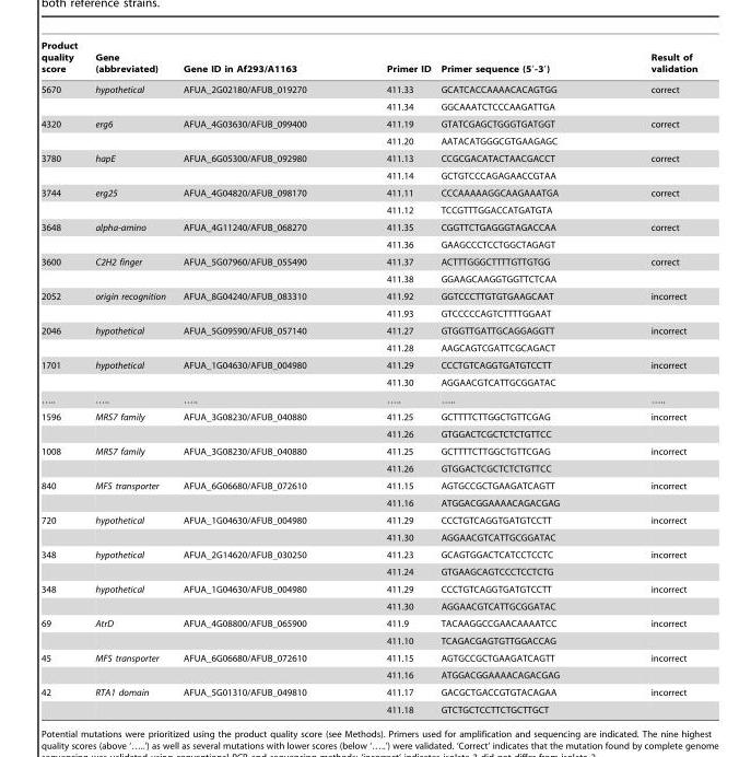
<table><thead><tr><td>Product quality score</td><td>Gene (abbreviated)</td><td>Gene ID in Af293/A1163</td><td>Primer ID</td><td>Primer sequence (5′-3′)</td><td>Result of validation</td></tr></thead><tbody><tr><td rowspan="2">5670</td><td>hypothetical</td><td>AFUA_2G02180/AFUB_019270</td><td>411.33</td><td>GCATCACCAAAACACAGTGG</td><td>correct</td></tr><tr><td></td><td></td><td>411.34</td><td>GGCAAATCTCCCAAGATTGA</td><td></td></tr><tr><td rowspan="2">4320</td><td>erg6</td><td>AFUA_4G03630/AFUB_099400</td><td>411.19</td><td>GTATCGAGCTGGGTGATGGT</td><td>correct</td></tr><tr><td></td><td></td><td>411.20</td><td>AATACATGGGCGTGAAGAGC</td><td></td></tr><tr><td rowspan="2">3780</td><td>hapE</td><td>AFUA_6G05300/AFUB_092980</td><td>411.13</td><td>CCGCGACATACTAACGACCT</td><td>correct</td></tr><tr><td></td><td></td><td>411.14</td><td>GCTGTCCCAGAGAACCGTAA</td><td></td></tr><tr><td rowspan="2">3744</td><td>erg25</td><td>AFUA_4G04820/AFUB_098170</td><td>411.11</td><td>CCCAAAAAGGCAAGAAATGA</td><td>correct</td></tr><tr><td></td><td></td><td>411.12</td><td>TCCGTTTGGACCATGATGTA</td><td></td></tr><tr><td rowspan="2">3648</td><td>alpha-amino</td><td>AFUA_4G11240/AFUB_068270</td><td>411.35</td><td>CGGTTCTGAGGGTAGACCAA</td><td>correct</td></tr><tr><td></td><td></td><td>411.36</td><td>GAAGCCCTCCTGGCTAGAGT</td><td></td></tr><tr><td rowspan="2">3600</td><td>C2H2 finger</td><td>AFUA_5G07960/AFUB_055490</td><td>411.37</td><td>ACTTTGGGCTTTTGTTGTGG</td><td>correct</td></tr><tr><td></td><td></td><td>411.38</td><td>GGAAGCAAGGTGGTTCTCAA</td><td></td></tr><tr><td rowspan="2">2052</td><td>origin recognition</td><td>AFUA_8G04240/AFUB_083310</td><td>411.92</td><td>GGTCCCTTGTGTGAAGCAAT</td><td>incorrect</td></tr><tr><td></td><td></td><td>411.93</td><td>GTCCCCCAGTCTTTTGGAAT</td><td></td></tr><tr><td rowspan="2">2046</td><td>hypothetical</td><td>AFUA_5G09590/AFUB_057140</td><td>411.27</td><td>GTGGTTGATTGCAGGAGGTT</td><td>incorrect</td></tr><tr><td></td><td></td><td>411.28</td><td>AAGCAGTCGATTCGCAGACT</td><td></td></tr><tr><td rowspan="2">1701</td><td>hypothetical</td><td>AFUA_1G04630/AFUB_004980</td><td>411.29</td><td>CCCTGTCAGGTGATGTCCTT</td><td>incorrect</td></tr><tr><td></td><td></td><td>411.30</td><td>AGGAACGTCATTGCGGATAC</td><td></td></tr><tr><td>…..</td><td>…..</td><td>…..</td><td>…..</td><td>…..</td><td>…..</td></tr><tr><td rowspan="2">1596</td><td>MRS7 family</td><td>AFUA_3G08230/AFUB_040880</td><td>411.25</td><td>GCTTTTCTTGGCTGTTCGAG</td><td>incorrect</td></tr><tr><td></td><td></td><td>411.26</td><td>GTGGACTCGCTCTCTGTTCC</td><td></td></tr><tr><td rowspan="2">1008</td><td>MRS7 family</td><td>AFUA_3G08230/AFUB_040880</td><td>411.25</td><td>GCTTTTCTTGGCTGTTCGAG</td><td>incorrect</td></tr><tr><td></td><td></td><td>411.26</td><td>GTGGACTCGCTCTCTGTTCC</td><td></td></tr><tr><td rowspan="2">840</td><td>MFS transporter</td><td>AFUA_6G06680/AFUB_072610</td><td>411.15</td><td>AGTGCCGCTGAAGATCAGTT</td><td>incorrect</td></tr><tr><td></td><td></td><td>411.16</td><td>ATGGACGGAAAACAGACGAG</td><td></td></tr><tr><td rowspan="2">720</td><td>hypothetical</td><td>AFUA_1G04630/AFUB_004980</td><td>411.29</td><td>CCCTGTCAGGTGATGTCCTT</td><td>incorrect</td></tr><tr><td></td><td></td><td>411.30</td><td>AGGAACGTCATTGCGGATAC</td><td></td></tr><tr><td rowspan="2">348</td><td>hypothetical</td><td>AFUA_2G14620/AFUB_030250</td><td>411.23</td><td>GCAGTGGACTCATCCTCCTC</td><td>incorrect</td></tr><tr><td></td><td></td><td>411.24</td><td>GTGAAGCAGTCCCTCCTCTG</td><td></td></tr><tr><td rowspan="2">348</td><td>hypothetical</td><td>AFUA_1G04630/AFUB_004980</td><td>411.29</td><td>CCCTGTCAGGTGATGTCCTT</td><td>incorrect</td></tr><tr><td></td><td></td><td>411.30</td><td>AGGAACGTCATTGCGGATAC</td><td></td></tr><tr><td rowspan="2">69</td><td>AtrD</td><td>AFUA_4G08800/AFUB_065900</td><td>411.9</td><td>TACAAGGCCGAACAAAATCC</td><td>incorrect</td></tr><tr><td></td><td></td><td>411.10</td><td>TCAGACGAGTGTTGGACCAG</td><td></td></tr><tr><td rowspan="2">45</td><td>MFS transporter</td><td>AFUA_6G06680/AFUB_072610</td><td>411.15</td><td>AGTGCCGCTGAAGATCAGTT</td><td>incorrect</td></tr><tr><td></td><td></td><td>411.16</td><td>ATGGACGGAAAACAGACGAG</td><td></td></tr><tr><td rowspan="2">42</td><td>RTA1 domain</td><td>AFUA_5G01310/AFUB_049810</td><td>411.17</td><td>GACGCTGACCGTGTACAGAA</td><td>incorrect</td></tr><tr><td></td><td></td><td>411.18</td><td>GTCTGCTCCTTCTGCTTGCT</td><td></td></tr></tbody></table>